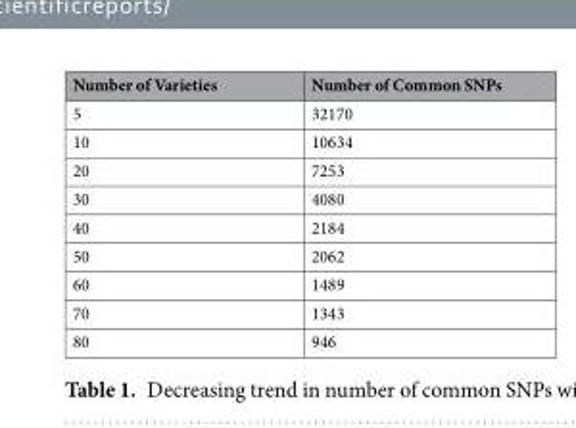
<table><thead><tr><td>Number of Varieties</td><td>Number of Common SNPs</td></tr></thead><tbody><tr><td>5</td><td>32170</td></tr><tr><td>10</td><td>10634</td></tr><tr><td>20</td><td>7253</td></tr><tr><td>30</td><td>4080</td></tr><tr><td>40</td><td>2184</td></tr><tr><td>50</td><td>2062</td></tr><tr><td>60</td><td>1489</td></tr><tr><td>70</td><td>1343</td></tr><tr><td>80</td><td>946</td></tr></tbody></table>